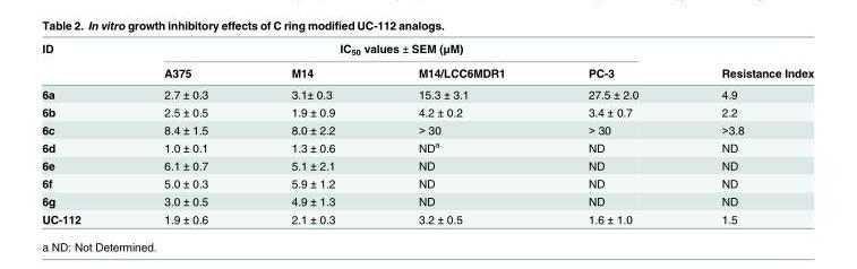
<table><thead><tr><td rowspan="2">ID</td><td colspan="4">IC<sub>50</sub> values ± SEM (μM)</td><td rowspan="2">Resistance Index</td></tr><tr><td>A375</td><td>M14</td><td>M14/LCC6MDR1</td><td>PC-3</td></tr></thead><tbody><tr><td>6a</td><td>2.7 ± 0.3</td><td>3.1± 0.3</td><td>15.3 ± 3.1</td><td>27.5 ± 2.0</td><td>4.9</td></tr><tr><td>6b</td><td>2.5 ± 0.5</td><td>1.9 ± 0.9</td><td>4.2 ± 0.2</td><td>3.4 ± 0.7</td><td>2.2</td></tr><tr><td>6c</td><td>8.4 ± 1.5</td><td>8.0 ± 2.2</td><td>&gt; 30</td><td>&gt; 30</td><td>&gt;3.8</td></tr><tr><td>6d</td><td>1.0 ± 0.1</td><td>1.3 ± 0.6</td><td>ND<sup>a</sup></td><td>ND</td><td>ND</td></tr><tr><td>6e</td><td>6.1 ± 0.7</td><td>5.1 ± 2.1</td><td>ND</td><td>ND</td><td>ND</td></tr><tr><td>6f</td><td>5.0 ± 0.3</td><td>5.9 ± 1.2</td><td>ND</td><td>ND</td><td>ND</td></tr><tr><td>6g</td><td>3.0 ± 0.5</td><td>4.9 ± 1.3</td><td>ND</td><td>ND</td><td>ND</td></tr><tr><td>UC-112</td><td>1.9 ± 0.6</td><td>2.1 ± 0.3</td><td>3.2 ± 0.5</td><td>1.6 ± 1.0</td><td>1.5</td></tr></tbody></table>